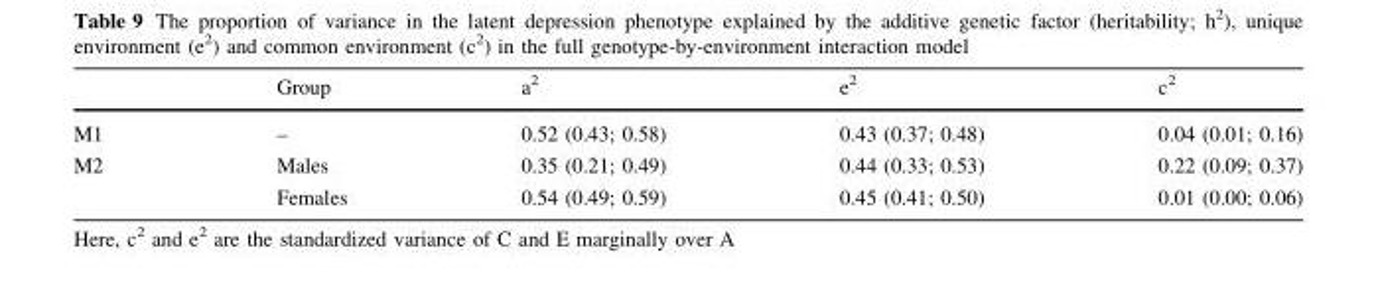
<table><thead><tr><td></td><td>Group</td><td>a<sup>2</sup></td><td>e<sup>2</sup></td><td>c<sup>2</sup></td></tr></thead><tbody><tr><td>M1</td><td>–</td><td>0.52 (0.43; 0.58)</td><td>0.43 (0.37; 0.48)</td><td>0.04 (0.01; 0.16)</td></tr><tr><td rowspan="2">M2</td><td>Males</td><td>0.35 (0.21; 0.49)</td><td>0.44 (0.33; 0.53)</td><td>0.22 (0.09; 0.37)</td></tr><tr><td>Females</td><td>0.54 (0.49; 0.59)</td><td>0.45 (0.41; 0.50)</td><td>0.01 (0.00; 0.06)</td></tr></tbody></table>